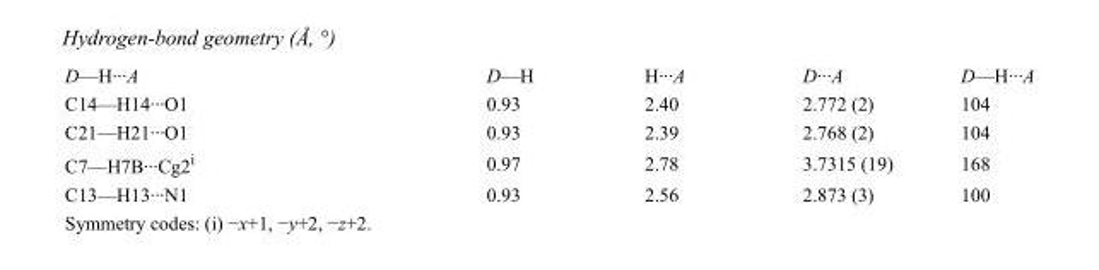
<table><tbody><tr><td>D—H···A</td><td>D—H</td><td>H···A</td><td>D···A</td><td>D—H···A</td></tr><tr><td>C14—H14···O1</td><td>0.93</td><td>2.40</td><td>2.772 (2)</td><td>104</td></tr><tr><td>C21—H21···O1</td><td>0.93</td><td>2.39</td><td>2.768 (2)</td><td>104</td></tr><tr><td>C7—H7B···Cg2<sup>i</sup></td><td>0.97</td><td>2.78</td><td>3.7315 (19)</td><td>168</td></tr><tr><td>C13—H13···N1</td><td>0.93</td><td>2.56</td><td>2.873 (3)</td><td>100</td></tr></tbody></table>